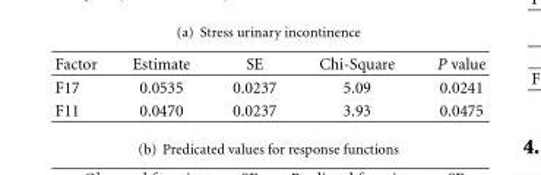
<table><thead><tr><td>Factor</td><td>Estimate</td><td>SE</td><td>Chi-Square</td><td>P value</td></tr></thead><tbody><tr><td>F17</td><td>0.0535</td><td>0.0237</td><td>5.09</td><td>0.0241</td></tr><tr><td>F11</td><td>0.0470</td><td>0.0237</td><td>3.93</td><td>0.0475</td></tr></tbody></table>